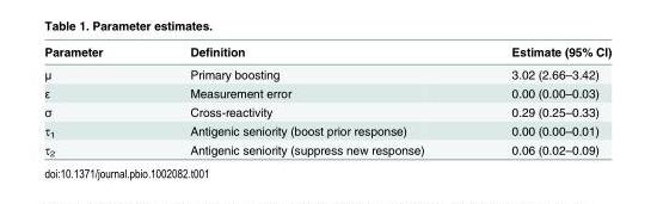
<table><thead><tr><td>Parameter</td><td>Definition</td><td>Estimate (95% CI)</td></tr></thead><tbody><tr><td>μ</td><td>Primary boosting</td><td>3.02 (2.66–3.42)</td></tr><tr><td>ε</td><td>Measurement error</td><td>0.00 (0.00–0.03)</td></tr><tr><td>σ</td><td>Cross-reactivity</td><td>0.29 (0.25–0.33)</td></tr><tr><td>τ<sub>1</sub></td><td>Antigenic seniority (boost prior response)</td><td>0.00 (0.00–0.01)</td></tr><tr><td>τ<sub>2</sub></td><td>Antigenic seniority (suppress new response)</td><td>0.06 (0.02–0.09)</td></tr></tbody></table>